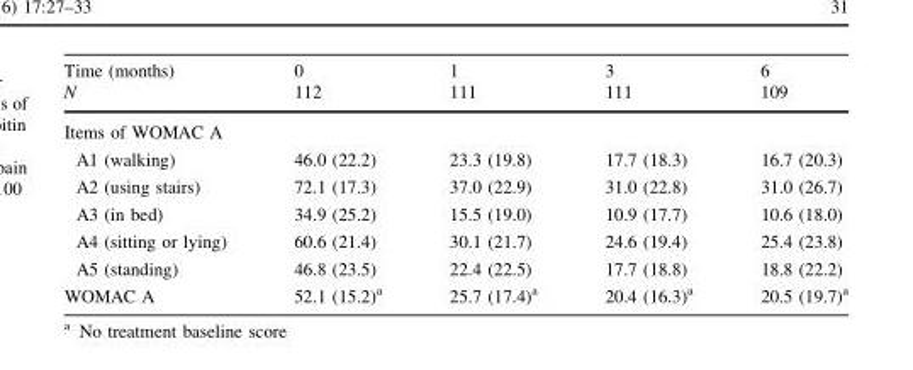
<table><thead><tr><td rowspan="2">Time (months) N</td><td rowspan="2">0 112</td><td rowspan="2">1 111</td><td rowspan="2">3 111</td><td rowspan="2">6 109</td></tr><tr></tr></thead><tbody><tr><td colspan="5">Items of WOMAC A</td></tr><tr><td>A1 (walking)</td><td>46.0 (22.2)</td><td>23.3 (19.8)</td><td>17.7 (18.3)</td><td>16.7 (20.3)</td></tr><tr><td>A2 (using stairs)</td><td>72.1 (17.3)</td><td>37.0 (22.9)</td><td>31.0 (22.8)</td><td>31.0 (26.7)</td></tr><tr><td>A3 (in bed)</td><td>34.9 (25.2)</td><td>15.5 (19.0)</td><td>10.9 (17.7)</td><td>10.6 (18.0)</td></tr><tr><td>A4 (sitting or lying)</td><td>60.6 (21.4)</td><td>30.1 (21.7)</td><td>24.6 (19.4)</td><td>25.4 (23.8)</td></tr><tr><td>A5 (standing)</td><td>46.8 (23.5)</td><td>22.4 (22.5)</td><td>17.7 (18.8)</td><td>18.8 (22.2)</td></tr><tr><td>WOMAC A</td><td>52.1 (15.2)<sup>a</sup></td><td>25.7 (17.4)<sup>a</sup></td><td>20.4 (16.3)<sup>a</sup></td><td>20.5 (19.7)<sup>a</sup></td></tr></tbody></table>